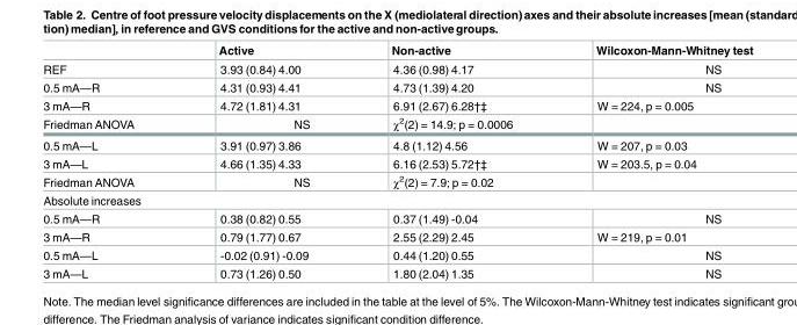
<table><thead><tr><td></td><td>Active</td><td>Non-active</td><td>Wilcoxon-Mann-Whitney test</td></tr></thead><tbody><tr><td>REF</td><td>3.93 (0.84) 4.00</td><td>4.36 (0.98) 4.17</td><td>NS</td></tr><tr><td>0.5 mA—R</td><td>4.31 (0.93) 4.41</td><td>4.73 (1.39) 4.20</td><td>NS</td></tr><tr><td>3 mA—R</td><td>4.72 (1.81) 4.31</td><td>6.91 (2.67) 6.28†‡</td><td>W = 224, p = 0.005</td></tr><tr><td>Friedman ANOVA</td><td>NS</td><td>χ<sup>2</sup>(2) = 14.9; p = 0.0006</td><td></td></tr><tr><td>0.5 mA—L</td><td>3.91 (0.97) 3.86</td><td>4.8 (1.12) 4.56</td><td>W = 207, p = 0.03</td></tr><tr><td>3 mA—L</td><td>4.66 (1.35) 4.33</td><td>6.16 (2.53) 5.72†‡</td><td>W = 203.5, p = 0.04</td></tr><tr><td>Friedman ANOVA</td><td>NS</td><td>χ<sup>2</sup>(2) = 7.9; p = 0.02</td><td></td></tr><tr><td colspan="4">Absolute increases</td></tr><tr><td>0.5 mA—R</td><td>0.38 (0.82) 0.55</td><td>0.37 (1.49) -0.04</td><td>NS</td></tr><tr><td>3 mA—R</td><td>0.79 (1.77) 0.67</td><td>2.55 (2.29) 2.45</td><td>W = 219, p = 0.01</td></tr><tr><td>0.5 mA—L</td><td>-0.02 (0.91) -0.09</td><td>0.44 (1.20) 0.55</td><td>NS</td></tr><tr><td>3 mA—L</td><td>0.73 (1.26) 0.50</td><td>1.80 (2.04) 1.35</td><td>NS</td></tr></tbody></table>